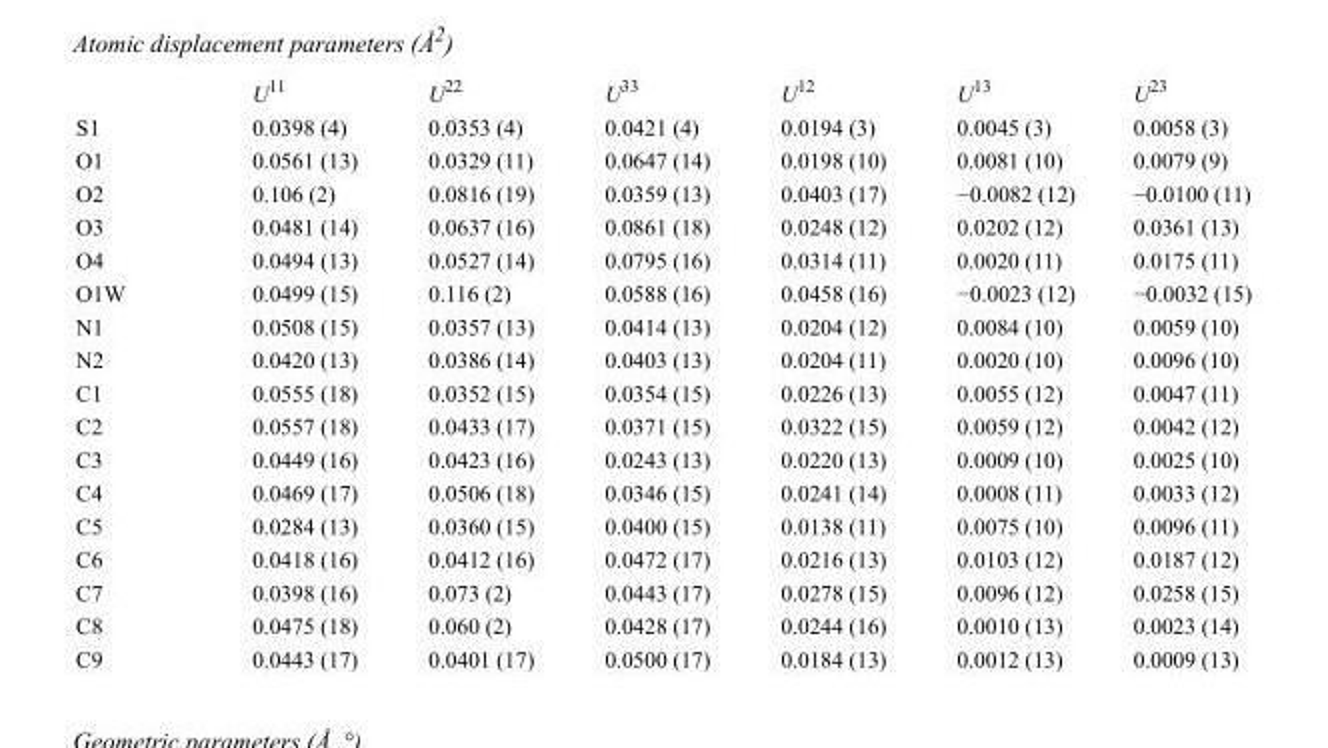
<table><thead><tr><td></td><td>U<sup>11</sup></td><td>U<sup>22</sup></td><td>U<sup>33</sup></td><td>U<sup>12</sup></td><td>U<sup>13</sup></td><td>U<sup>23</sup></td></tr></thead><tbody><tr><td>S1</td><td>0.0398 (4)</td><td>0.0353 (4)</td><td>0.0421 (4)</td><td>0.0194 (3)</td><td>0.0045 (3)</td><td>0.0058 (3)</td></tr><tr><td>O1</td><td>0.0561 (13)</td><td>0.0329 (11)</td><td>0.0647 (14)</td><td>0.0198 (10)</td><td>0.0081 (10)</td><td>0.0079 (9)</td></tr><tr><td>O2</td><td>0.106 (2)</td><td>0.0816 (19)</td><td>0.0359 (13)</td><td>0.0403 (17)</td><td>−0.0082 (12)</td><td>−0.0100 (11)</td></tr><tr><td>O3</td><td>0.0481 (14)</td><td>0.0637 (16)</td><td>0.0861 (18)</td><td>0.0248 (12)</td><td>0.0202 (12)</td><td>0.0361 (13)</td></tr><tr><td>O4</td><td>0.0494 (13)</td><td>0.0527 (14)</td><td>0.0795 (16)</td><td>0.0314 (11)</td><td>0.0020 (11)</td><td>0.0175 (11)</td></tr><tr><td>O1W</td><td>0.0499 (15)</td><td>0.116 (2)</td><td>0.0588 (16)</td><td>0.0458 (16)</td><td>−0.0023 (12)</td><td>−0.0032 (15)</td></tr><tr><td>N1</td><td>0.0508 (15)</td><td>0.0357 (13)</td><td>0.0414 (13)</td><td>0.0204 (12)</td><td>0.0084 (10)</td><td>0.0059 (10)</td></tr><tr><td>N2</td><td>0.0420 (13)</td><td>0.0386 (14)</td><td>0.0403 (13)</td><td>0.0204 (11)</td><td>0.0020 (10)</td><td>0.0096 (10)</td></tr><tr><td>C1</td><td>0.0555 (18)</td><td>0.0352 (15)</td><td>0.0354 (15)</td><td>0.0226 (13)</td><td>0.0055 (12)</td><td>0.0047 (11)</td></tr><tr><td>C2</td><td>0.0557 (18)</td><td>0.0433 (17)</td><td>0.0371 (15)</td><td>0.0322 (15)</td><td>0.0059 (12)</td><td>0.0042 (12)</td></tr><tr><td>C3</td><td>0.0449 (16)</td><td>0.0423 (16)</td><td>0.0243 (13)</td><td>0.0220 (13)</td><td>0.0009 (10)</td><td>0.0025 (10)</td></tr><tr><td>C4</td><td>0.0469 (17)</td><td>0.0506 (18)</td><td>0.0346 (15)</td><td>0.0241 (14)</td><td>0.0008 (11)</td><td>0.0033 (12)</td></tr><tr><td>C5</td><td>0.0284 (13)</td><td>0.0360 (15)</td><td>0.0400 (15)</td><td>0.0138 (11)</td><td>0.0075 (10)</td><td>0.0096 (11)</td></tr><tr><td>C6</td><td>0.0418 (16)</td><td>0.0412 (16)</td><td>0.0472 (17)</td><td>0.0216 (13)</td><td>0.0103 (12)</td><td>0.0187 (12)</td></tr><tr><td>C7</td><td>0.0398 (16)</td><td>0.073 (2)</td><td>0.0443 (17)</td><td>0.0278 (15)</td><td>0.0096 (12)</td><td>0.0258 (15)</td></tr><tr><td>C8</td><td>0.0475 (18)</td><td>0.060 (2)</td><td>0.0428 (17)</td><td>0.0244 (16)</td><td>0.0010 (13)</td><td>0.0023 (14)</td></tr><tr><td>C9</td><td>0.0443 (17)</td><td>0.0401 (17)</td><td>0.0500 (17)</td><td>0.0184 (13)</td><td>0.0012 (13)</td><td>0.0009 (13)</td></tr></tbody></table>